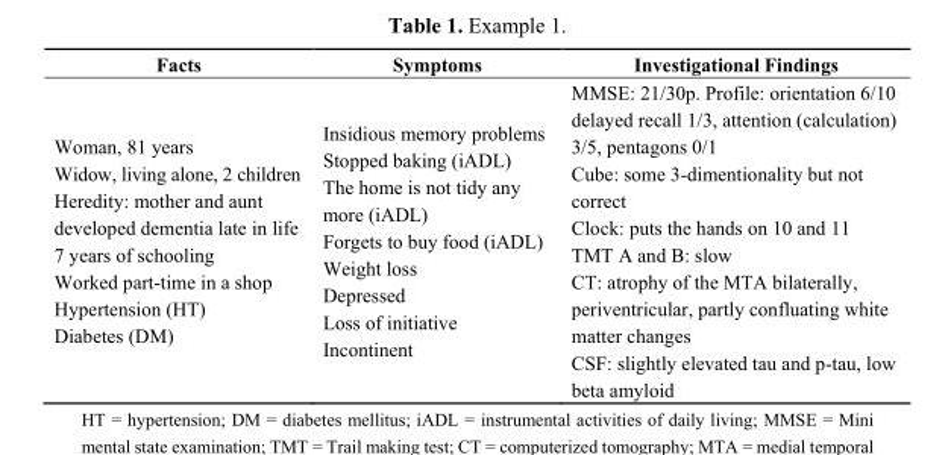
<table><thead><tr><td>Facts</td><td>Symptoms</td><td>Investigational Findings</td></tr></thead><tbody><tr><td>Woman, 81 years Widow, living alone, 2 children Heredity: mother and aunt developed dementia late in life 7 years of schooling Worked part-time in a shop Hypertension (HT) Diabetes (DM)</td><td>Insidious memory problems Stopped baking (iADL) The home is not tidy any more (iADL) Forgets to buy food (iADL) Weight loss Depressed Loss of initiative Incontinent</td><td>MMSE: 21/30p. Profile: orientation 6/10 delayed recall 1/3, attention (calculation) 3/5, pentagons 0/1 Cube: some 3-dimentionality but not correct Clock: puts the hands on 10 and 11 TMT A and B: slow CT: atrophy of the MTA bilaterally, periventricular, partly confluating white matter changes CSF: slightly elevated tau and p-tau, low beta amyloid</td></tr></tbody></table>